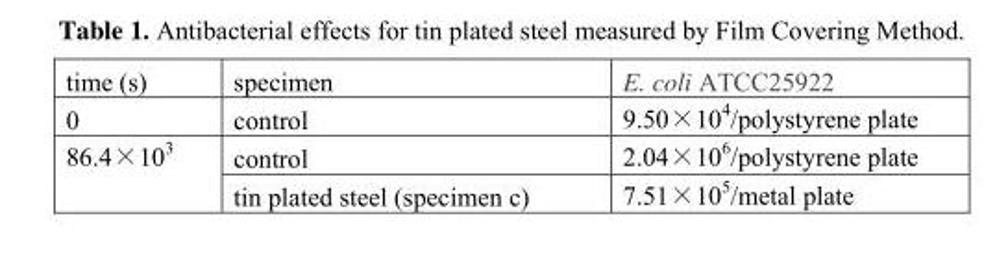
<table><thead><tr><td>time (s)</td><td>specimen</td><td>E. coli ATCC25922</td></tr></thead><tbody><tr><td>0</td><td>control</td><td>9.50×10<sup>4</sup>/polystyrene plate</td></tr><tr><td rowspan="2">86.4×10<sup>3</sup></td><td>control</td><td>2.04×10<sup>6</sup>/polystyrene plate</td></tr><tr><td>tin plated steel (specimen c)</td><td>7.51×10<sup>5</sup>/metal plate</td></tr></tbody></table>